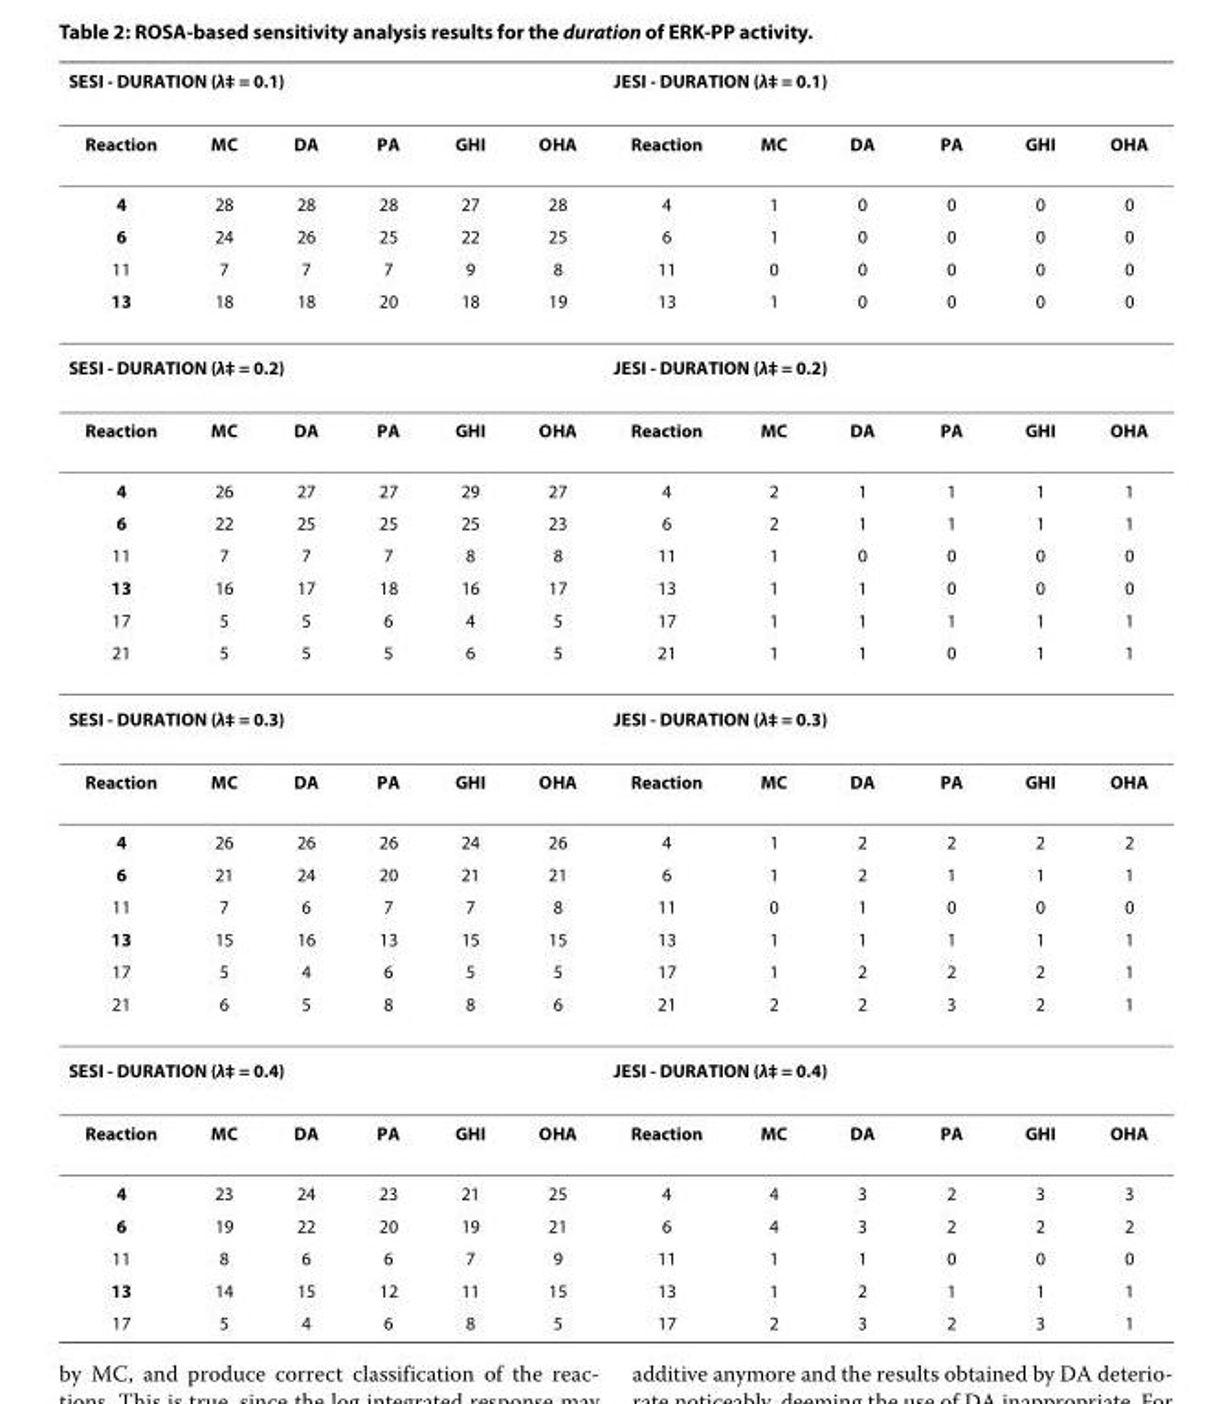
<table><thead><tr><td colspan="6">SESI - DURATION (λ<sup>‡</sup> = 0.1)</td><td colspan="6">JESI - DURATION (λ<sup>‡</sup> = 0.1)</td></tr><tr><td>Reaction</td><td>MC</td><td>DA</td><td>PA</td><td>GHI</td><td>OHA</td><td>Reaction</td><td>MC</td><td>DA</td><td>PA</td><td>GHI</td><td>OHA</td></tr></thead><tbody><tr><td>4</td><td>28</td><td>28</td><td>28</td><td>27</td><td>28</td><td>4</td><td>1</td><td>0</td><td>0</td><td>0</td><td>0</td></tr><tr><td>6</td><td>24</td><td>26</td><td>25</td><td>22</td><td>25</td><td>6</td><td>1</td><td>0</td><td>0</td><td>0</td><td>0</td></tr><tr><td>11</td><td>7</td><td>7</td><td>7</td><td>9</td><td>8</td><td>11</td><td>0</td><td>0</td><td>0</td><td>0</td><td>0</td></tr><tr><td>13</td><td>18</td><td>18</td><td>20</td><td>18</td><td>19</td><td>13</td><td>1</td><td>0</td><td>0</td><td>0</td><td>0</td></tr><tr><td colspan="6">SESI - DURATION (λ<sup>‡</sup> = 0.2)</td><td colspan="6">JESI - DURATION (λ<sup>‡</sup> = 0.2)</td></tr><tr><td>Reaction</td><td>MC</td><td>DA</td><td>PA</td><td>GHI</td><td>OHA</td><td>Reaction</td><td>MC</td><td>DA</td><td>PA</td><td>GHI</td><td>OHA</td></tr><tr><td>4</td><td>26</td><td>27</td><td>27</td><td>29</td><td>27</td><td>4</td><td>2</td><td>1</td><td>1</td><td>1</td><td>1</td></tr><tr><td>6</td><td>22</td><td>25</td><td>25</td><td>25</td><td>23</td><td>6</td><td>2</td><td>1</td><td>1</td><td>1</td><td>1</td></tr><tr><td>11</td><td>7</td><td>7</td><td>7</td><td>8</td><td>8</td><td>11</td><td>1</td><td>0</td><td>0</td><td>0</td><td>0</td></tr><tr><td>13</td><td>16</td><td>17</td><td>18</td><td>16</td><td>17</td><td>13</td><td>1</td><td>1</td><td>0</td><td>0</td><td>0</td></tr><tr><td>17</td><td>5</td><td>5</td><td>6</td><td>4</td><td>5</td><td>17</td><td>1</td><td>1</td><td>1</td><td>1</td><td>1</td></tr><tr><td>21</td><td>5</td><td>5</td><td>5</td><td>6</td><td>5</td><td>21</td><td>1</td><td>1</td><td>0</td><td>1</td><td>1</td></tr><tr><td colspan="6">SESI - DURATION (λ<sup>‡</sup> = 0.3)</td><td colspan="6">JESI - DURATION (λ<sup>‡</sup> = 0.3)</td></tr><tr><td>Reaction</td><td>MC</td><td>DA</td><td>PA</td><td>GHI</td><td>OHA</td><td>Reaction</td><td>MC</td><td>DA</td><td>PA</td><td>GHI</td><td>OHA</td></tr><tr><td>4</td><td>26</td><td>26</td><td>26</td><td>24</td><td>26</td><td>4</td><td>1</td><td>2</td><td>2</td><td>2</td><td>2</td></tr><tr><td>6</td><td>21</td><td>24</td><td>20</td><td>21</td><td>21</td><td>6</td><td>1</td><td>2</td><td>1</td><td>1</td><td>1</td></tr><tr><td>11</td><td>7</td><td>6</td><td>7</td><td>7</td><td>8</td><td>11</td><td>0</td><td>1</td><td>0</td><td>0</td><td>0</td></tr><tr><td>13</td><td>15</td><td>16</td><td>13</td><td>15</td><td>15</td><td>13</td><td>1</td><td>1</td><td>1</td><td>1</td><td>1</td></tr><tr><td>17</td><td>5</td><td>4</td><td>6</td><td>5</td><td>5</td><td>17</td><td>1</td><td>2</td><td>2</td><td>2</td><td>1</td></tr><tr><td>21</td><td>6</td><td>5</td><td>8</td><td>8</td><td>6</td><td>21</td><td>2</td><td>2</td><td>3</td><td>2</td><td>1</td></tr><tr><td colspan="6">SESI - DURATION (λ<sup>‡</sup> = 0.4)</td><td colspan="6">JESI - DURATION (λ<sup>‡</sup> = 0.4)</td></tr><tr><td>Reaction</td><td>MC</td><td>DA</td><td>PA</td><td>GHI</td><td>OHA</td><td>Reaction</td><td>MC</td><td>DA</td><td>PA</td><td>GHI</td><td>OHA</td></tr><tr><td>4</td><td>23</td><td>24</td><td>23</td><td>21</td><td>25</td><td>4</td><td>4</td><td>3</td><td>2</td><td>3</td><td>3</td></tr><tr><td>6</td><td>19</td><td>22</td><td>20</td><td>19</td><td>21</td><td>6</td><td>4</td><td>3</td><td>2</td><td>2</td><td>2</td></tr><tr><td>11</td><td>8</td><td>6</td><td>6</td><td>7</td><td>9</td><td>11</td><td>1</td><td>1</td><td>0</td><td>0</td><td>0</td></tr><tr><td>13</td><td>14</td><td>15</td><td>12</td><td>11</td><td>15</td><td>13</td><td>1</td><td>2</td><td>1</td><td>1</td><td>1</td></tr><tr><td>17</td><td>5</td><td>4</td><td>6</td><td>8</td><td>5</td><td>17</td><td>2</td><td>3</td><td>2</td><td>3</td><td>1</td></tr></tbody></table>